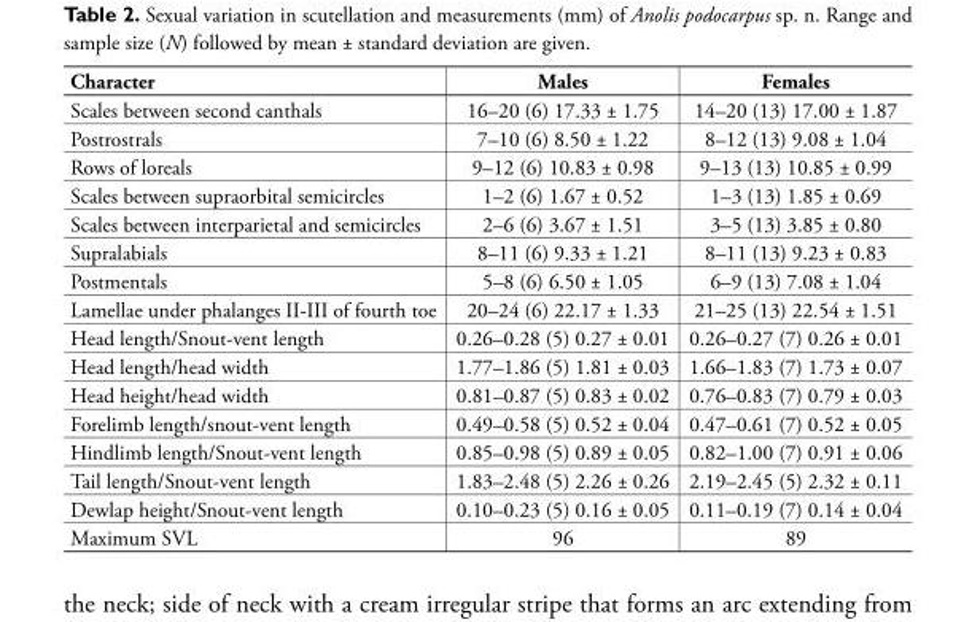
<table><thead><tr><td>Character</td><td>Males</td><td>Females</td></tr></thead><tbody><tr><td>Scales between second canthals</td><td>16–20 (6) 17.33 ± 1.75</td><td>14–20 (13) 17.00 ± 1.87</td></tr><tr><td>Postrostrals</td><td>7–10 (6) 8.50 ± 1.22</td><td>8–12 (13) 9.08 ± 1.04</td></tr><tr><td>Rows of loreals</td><td>9–12 (6) 10.83 ± 0.98</td><td>9–13 (13) 10.85 ± 0.99</td></tr><tr><td>Scales between supraorbital semicircles</td><td>1–2 (6) 1.67 ± 0.52</td><td>1–3 (13) 1.85 ± 0.69</td></tr><tr><td>Scales between interparietal and semicircles</td><td>2–6 (6) 3.67 ± 1.51</td><td>3–5 (13) 3.85 ± 0.80</td></tr><tr><td>Supralabials</td><td>8–11 (6) 9.33 ± 1.21</td><td>8–11 (13) 9.23 ± 0.83</td></tr><tr><td>Postmentals</td><td>5–8 (6) 6.50 ± 1.05</td><td>6–9 (13) 7.08 ± 1.04</td></tr><tr><td>Lamellae under phalanges II-III of fourth toe</td><td>20–24 (6) 22.17 ± 1.33</td><td>21–25 (13) 22.54 ± 1.51</td></tr><tr><td>Head length/Snout-vent length</td><td>0.26–0.28 (5) 0.27 ± 0.01</td><td>0.26–0.27 (7) 0.26 ± 0.01</td></tr><tr><td>Head length/head width</td><td>1.77–1.86 (5) 1.81 ± 0.03</td><td>1.66–1.83 (7) 1.73 ± 0.07</td></tr><tr><td>Head height/head width</td><td>0.81–0.87 (5) 0.83 ± 0.02</td><td>0.76–0.83 (7) 0.79 ± 0.03</td></tr><tr><td>Forelimb length/snout-vent length</td><td>0.49–0.58 (5) 0.52 ± 0.04</td><td>0.47–0.61 (7) 0.52 ± 0.05</td></tr><tr><td>Hindlimb length/Snout-vent length</td><td>0.85–0.98 (5) 0.89 ± 0.05</td><td>0.82–1.00 (7) 0.91 ± 0.06</td></tr><tr><td>Tail length/Snout-vent length</td><td>1.83–2.48 (5) 2.26 ± 0.26</td><td>2.19–2.45 (5) 2.32 ± 0.11</td></tr><tr><td>Dewlap height/Snout-vent length</td><td>0.10–0.23 (5) 0.16 ± 0.05</td><td>0.11–0.19 (7) 0.14 ± 0.04</td></tr><tr><td>Maximum SVL</td><td>96</td><td>89</td></tr></tbody></table>